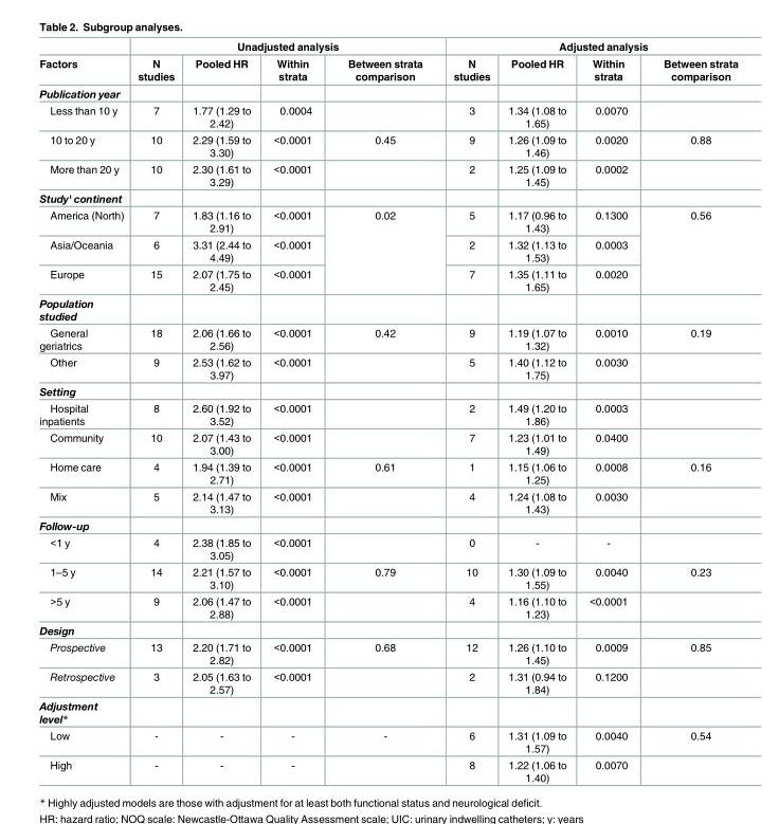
<table><thead><tr><td rowspan="2">Factors</td><td colspan="4">Unadjusted analysis</td><td colspan="4">Adjusted analysis</td></tr><tr><td>N studies</td><td>Pooled HR</td><td>Within strata</td><td>Between strata comparison</td><td>N studies</td><td>Pooled HR</td><td>Within strata</td><td>Between strata comparison</td></tr></thead><tbody><tr><td colspan="9">Publication year</td></tr><tr><td>Less than 10 y</td><td>7</td><td>1.77 (1.29 to 2.42)</td><td>0.0004</td><td></td><td>3</td><td>1.34 (1.08 to 1.65)</td><td>0.0070</td><td></td></tr><tr><td>10 to 20 y</td><td>10</td><td>2.29 (1.59 to 3.30)</td><td>&lt;0.0001</td><td>0.45</td><td>9</td><td>1.26 (1.09 to 1.46)</td><td>0.0020</td><td>0.88</td></tr><tr><td>More than 20 y</td><td>10</td><td>2.30 (1.61 to 3.29)</td><td>&lt;0.0001</td><td></td><td>2</td><td>1.25 (1.09 to 1.45)</td><td>0.0002</td><td></td></tr><tr><td colspan="9">Study&#x27; continent</td></tr><tr><td>America (North)</td><td>7</td><td>1.83 (1.16 to 2.91)</td><td>&lt;0.0001</td><td rowspan="3">0.02</td><td>5</td><td>1.17 (0.96 to 1.43)</td><td>0.1300</td><td rowspan="3">0.56</td></tr><tr><td>Asia/Oceania</td><td>6</td><td>3.31 (2.44 to 4.49)</td><td>&lt;0.0001</td><td>2</td><td>1.32 (1.13 to 1.53)</td><td>0.0003</td></tr><tr><td>Europe</td><td>15</td><td>2.07 (1.75 to 2.45)</td><td>&lt;0.0001</td><td>7</td><td>1.35 (1.11 to 1.65)</td><td>0.0020</td></tr><tr><td colspan="9">Population studied</td></tr><tr><td>General geriatrics</td><td>18</td><td>2.06 (1.66 to 2.56)</td><td>&lt;0.0001</td><td>0.42</td><td>9</td><td>1.19 (1.07 to 1.32)</td><td>0.0010</td><td>0.19</td></tr><tr><td>Other</td><td>9</td><td>2.53 (1.62 to 3.97)</td><td>&lt;0.0001</td><td></td><td>5</td><td>1.40 (1.12 to 1.75)</td><td>0.0030</td><td></td></tr><tr><td colspan="9">Setting</td></tr><tr><td>Hospital inpatients</td><td>8</td><td>2.60 (1.92 to 3.52)</td><td>&lt;0.0001</td><td></td><td>2</td><td>1.49 (1.20 to 1.86)</td><td>0.0003</td><td></td></tr><tr><td>Community</td><td>10</td><td>2.07 (1.43 to 3.00)</td><td>&lt;0.0001</td><td></td><td>7</td><td>1.23 (1.01 to 1.49)</td><td>0.0400</td><td></td></tr><tr><td>Home care</td><td>4</td><td>1.94 (1.39 to 2.71)</td><td>&lt;0.0001</td><td>0.61</td><td>1</td><td>1.15 (1.06 to 1.25)</td><td>0.0008</td><td>0.16</td></tr><tr><td>Mix</td><td>5</td><td>2.14 (1.47 to 3.13)</td><td>&lt;0.0001</td><td></td><td>4</td><td>1.24 (1.08 to 1.43)</td><td>0.0030</td><td></td></tr><tr><td colspan="9">Follow-up</td></tr><tr><td>&lt;1 y</td><td>4</td><td>2.38 (1.85 to 3.05)</td><td>&lt;0.0001</td><td></td><td>0</td><td>-</td><td>-</td><td></td></tr><tr><td>1–5 y</td><td>14</td><td>2.21 (1.57 to 3.10)</td><td>&lt;0.0001</td><td>0.79</td><td>10</td><td>1.30 (1.09 to 1.55)</td><td>0.0040</td><td>0.23</td></tr><tr><td>&gt;5 y</td><td>9</td><td>2.06 (1.47 to 2.88)</td><td>&lt;0.0001</td><td></td><td>4</td><td>1.16 (1.10 to 1.23)</td><td>&lt;0.0001</td><td></td></tr><tr><td colspan="9">Design</td></tr><tr><td>Prospective</td><td>13</td><td>2.20 (1.71 to 2.82)</td><td>&lt;0.0001</td><td>0.68</td><td>12</td><td>1.26 (1.10 to 1.45)</td><td>0.0009</td><td>0.85</td></tr><tr><td>Retrospective</td><td>3</td><td>2.05 (1.63 to 2.57)</td><td>&lt;0.0001</td><td></td><td>2</td><td>1.31 (0.94 to 1.84)</td><td>0.1200</td><td></td></tr><tr><td colspan="9">Adjustment level*</td></tr><tr><td>Low</td><td>-</td><td>-</td><td>-</td><td>-</td><td>6</td><td>1.31 (1.09 to 1.57)</td><td>0.0040</td><td>0.54</td></tr><tr><td>High</td><td>-</td><td>-</td><td>-</td><td></td><td>8</td><td>1.22 (1.06 to 1.40)</td><td>0.0070</td><td></td></tr></tbody></table>